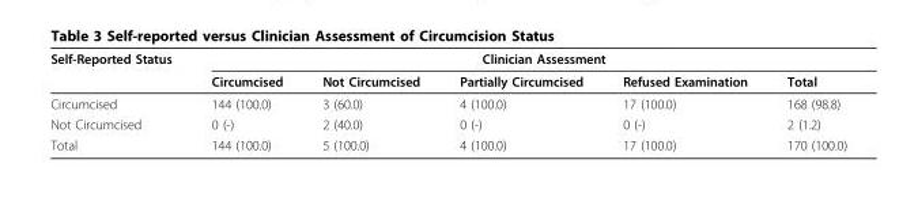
<table><thead><tr><td rowspan="2">Self-Reported Status</td><td colspan="5">Clinician Assessment</td></tr><tr><td>Circumcised</td><td>Not Circumcised</td><td>Partially Circumcised</td><td>Refused Examination</td><td>Total</td></tr></thead><tbody><tr><td>Circumcised</td><td>144 (100.0)</td><td>3 (60.0)</td><td>4 (100.0)</td><td>17 (100.0)</td><td>168 (98.8)</td></tr><tr><td>Not Circumcised</td><td>0 (-)</td><td>2 (40.0)</td><td>0 (-)</td><td>0 (-)</td><td>2 (1.2)</td></tr><tr><td>Total</td><td>144 (100.0)</td><td>5 (100.0)</td><td>4 (100.0)</td><td>17 (100.0)</td><td>170 (100.0)</td></tr></tbody></table>